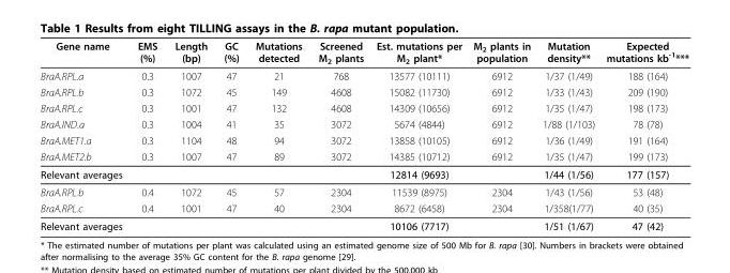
<table><thead><tr><td>Gene name</td><td>EMS (%)</td><td>Length (bp)</td><td>GC (%)</td><td>Mutations detected</td><td>Screened M<sub>2</sub> plants</td><td>Est. mutations per M<sub>2</sub> plant*</td><td>M<sub>2</sub> plants in population</td><td>Mutation density**</td><td>Expected mutations kb-1***</td></tr></thead><tbody><tr><td>BraA.RPL.a</td><td>0.3</td><td>1007</td><td>47</td><td>21</td><td>768</td><td>13577 (10111)</td><td>6912</td><td>1/37 (1/49)</td><td>188 (164)</td></tr><tr><td>BraA.RPL.b</td><td>0.3</td><td>1072</td><td>45</td><td>149</td><td>4608</td><td>15082 (11730)</td><td>6912</td><td>1/33 (1/43)</td><td>209 (190)</td></tr><tr><td>BraA.RPL.c</td><td>0.3</td><td>1001</td><td>47</td><td>132</td><td>4608</td><td>14309 (10656)</td><td>6912</td><td>1/35 (1/47)</td><td>198 (173)</td></tr><tr><td>BraA.IND.a</td><td>0.3</td><td>1004</td><td>41</td><td>35</td><td>3072</td><td>5674 (4844)</td><td>6912</td><td>1/88 (1/103)</td><td>78 (78)</td></tr><tr><td>BraA.MET1.a</td><td>0.3</td><td>1104</td><td>48</td><td>94</td><td>3072</td><td>13858 (10105)</td><td>6912</td><td>1/36 (1/49)</td><td>191 (164)</td></tr><tr><td>BraA.MET2.b</td><td>0.3</td><td>1007</td><td>47</td><td>89</td><td>3072</td><td>14385 (10712)</td><td>6912</td><td>1/35 (1/47)</td><td>199 (173)</td></tr><tr><td>Relevant averages</td><td></td><td></td><td></td><td></td><td></td><td>12814 (9693)</td><td></td><td>1/44 (1/56)</td><td>177 (157)</td></tr><tr><td>BraA.RPL.b</td><td>0.4</td><td>1072</td><td>45</td><td>57</td><td>2304</td><td>11539 (8975)</td><td>2304</td><td>1/43 (1/56)</td><td>53 (48)</td></tr><tr><td>BraA.RPL.c</td><td>0.4</td><td>1001</td><td>47</td><td>40</td><td>2304</td><td>8672 (6458)</td><td>2304</td><td>1/358(1/77)</td><td>40 (35)</td></tr><tr><td>Relevant averages</td><td></td><td></td><td></td><td></td><td></td><td>10106 (7717)</td><td></td><td>1/51 (1/67)</td><td>47 (42)</td></tr></tbody></table>